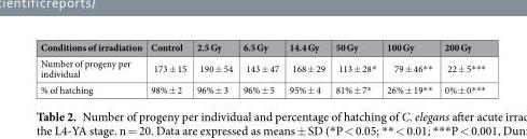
<table><thead><tr><td>Conditions of irradiation</td><td>Control</td><td>2.5 Gy</td><td>6.5 Gy</td><td>14.4 Gy</td><td>50 Gy</td><td>100 Gy</td><td>200 Gy</td></tr></thead><tbody><tr><td>Number of progeny per individual</td><td>173 ± 15</td><td>190 ± 54</td><td>143 ± 47</td><td>168 ± 29</td><td>113 ± 28*</td><td>79 ± 46**</td><td>22 ± 5***</td></tr><tr><td>% of hatching</td><td>98% ± 2</td><td>96% ± 3</td><td>96% ± 5</td><td>95% ± 4</td><td>81% ± 7*</td><td>26% ± 19**</td><td>0% ± 0***</td></tr></tbody></table>